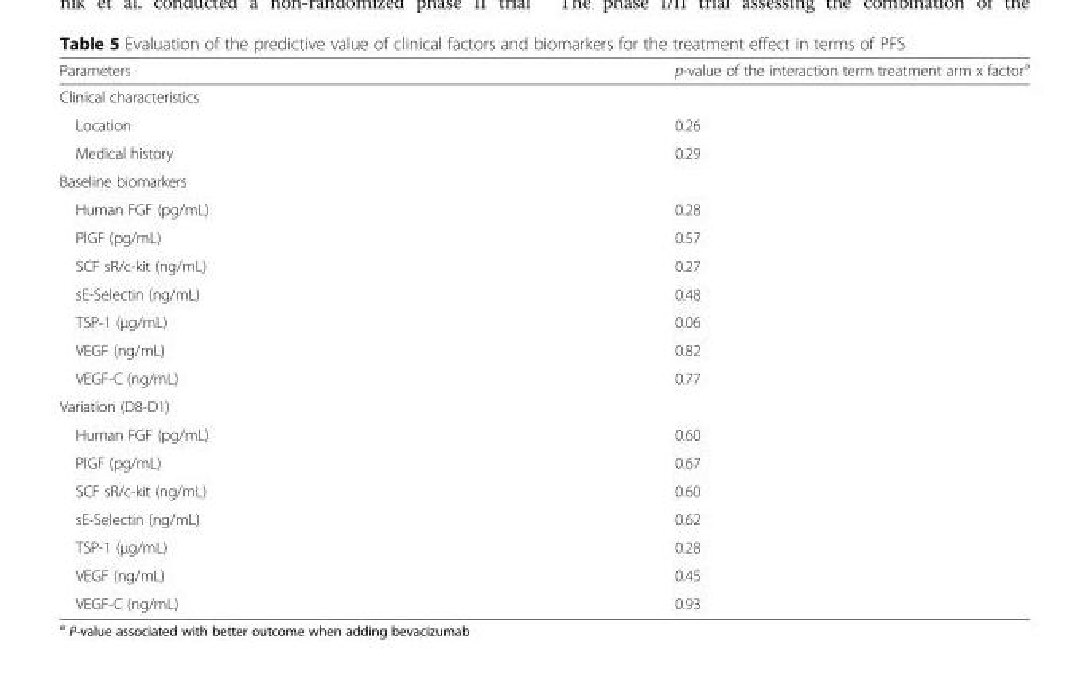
<table><thead><tr><td>Parameters</td><td>p-value of the interaction term treatment arm x factor<sup>a</sup></td></tr></thead><tbody><tr><td colspan="2">Clinical characteristics</td></tr><tr><td>Location</td><td>0.26</td></tr><tr><td>Medical history</td><td>0.29</td></tr><tr><td colspan="2">Baseline biomarkers</td></tr><tr><td>Human FGF (pg/mL)</td><td>0.28</td></tr><tr><td>PlGF (pg/mL)</td><td>0.57</td></tr><tr><td>SCF sR/c-kit (ng/mL)</td><td>0.27</td></tr><tr><td>sE-Selectin (ng/mL)</td><td>0.48</td></tr><tr><td>TSP-1 (μg/mL)</td><td>0.06</td></tr><tr><td>VEGF (ng/mL)</td><td>0.82</td></tr><tr><td>VEGF-C (ng/mL)</td><td>0.77</td></tr><tr><td colspan="2">Variation (D8-D1)</td></tr><tr><td>Human FGF (pg/mL)</td><td>0.60</td></tr><tr><td>PlGF (pg/mL)</td><td>0.67</td></tr><tr><td>SCF sR/c-kit (ng/mL)</td><td>0.60</td></tr><tr><td>sE-Selectin (ng/mL)</td><td>0.62</td></tr><tr><td>TSP-1 (μg/mL)</td><td>0.28</td></tr><tr><td>VEGF (ng/mL)</td><td>0.45</td></tr><tr><td>VEGF-C (ng/mL)</td><td>0.93</td></tr></tbody></table>